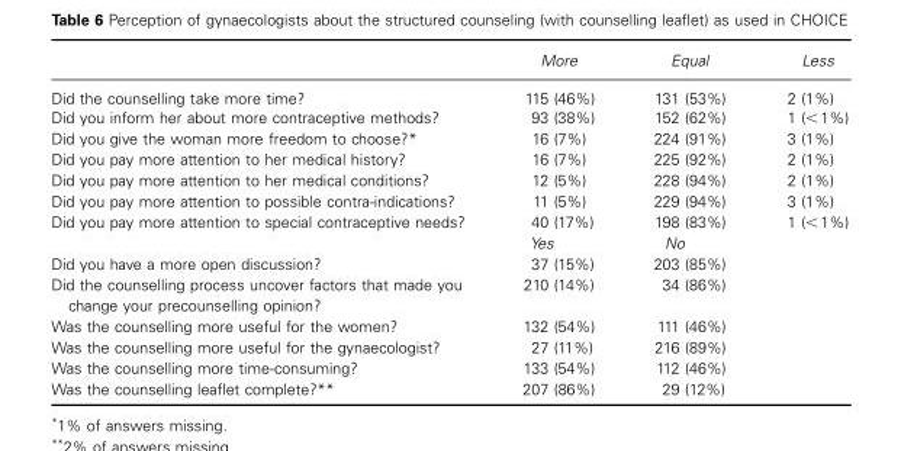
<table><thead><tr><td></td><td>More</td><td>Equal</td><td>Less</td></tr></thead><tbody><tr><td>Did the counselling take more time?</td><td>115 (46%)</td><td>131 (53%)</td><td>2 (1%)</td></tr><tr><td>Did you inform her about more contraceptive methods?</td><td>93 (38%)</td><td>152 (62%)</td><td>1 ( &lt; 1%)</td></tr><tr><td>Did you give the woman more freedom to choose? *</td><td>16 (7%)</td><td>224 (91%)</td><td>3 (1%)</td></tr><tr><td>Did you pay more attention to her medical history?</td><td>16 (7%)</td><td>225 (92%)</td><td>2 (1%)</td></tr><tr><td>Did you pay more attention to her medical conditions?</td><td>12 (5%)</td><td>228 (94%)</td><td>2 (1%)</td></tr><tr><td>Did you pay more attention to possible contra-indications?</td><td>11 (5%)</td><td>229 (94%)</td><td>3 (1%)</td></tr><tr><td rowspan="2">Did you pay more attention to special contraceptive needs?</td><td>40 (17%)</td><td>198 (83%)</td><td>1 ( &lt; 1%)</td></tr><tr><td>Yes</td><td>No</td><td></td></tr><tr><td>Did you have a more open discussion?</td><td>37 (15%)</td><td>203 (85%)</td><td></td></tr><tr><td>Did the counselling process uncover factors that made you change your precounselling opinion?</td><td>210 (14%)</td><td>34 (86%)</td><td></td></tr><tr><td>Was the counselling more useful for the women?</td><td>132 (54%)</td><td>111 (46%)</td><td></td></tr><tr><td>Was the counselling more useful for the gynaecologist?</td><td>27 (11%)</td><td>216 (89%)</td><td></td></tr><tr><td>Was the counselling more time-consuming?</td><td>133 (54%)</td><td>112 (46%)</td><td></td></tr><tr><td>Was the counselling leafl et complete? * *</td><td>207 (86%)</td><td>29 (12%)</td><td></td></tr></tbody></table>